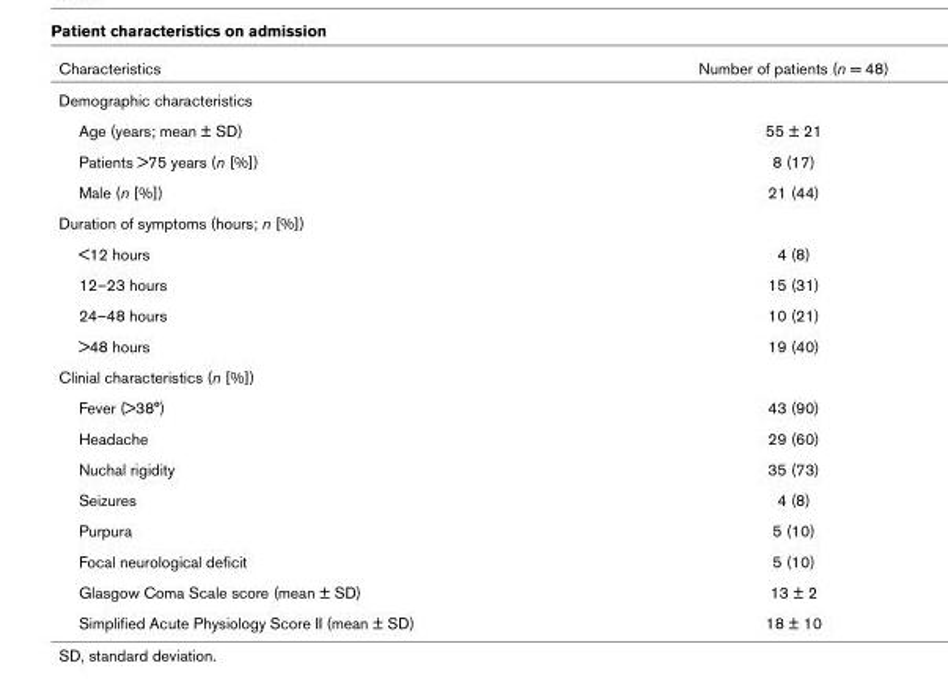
<table><thead><tr><td>Characteristics</td><td>Number of patients (n = 48)</td></tr></thead><tbody><tr><td colspan="2">Demographic characteristics</td></tr><tr><td>Age (years; mean ± SD)</td><td>55 ± 21</td></tr><tr><td>Patients &gt;75 years (n [%])</td><td>8 (17)</td></tr><tr><td>Male (n [%])</td><td>21 (44)</td></tr><tr><td colspan="2">Duration of symptoms (hours; n [%])</td></tr><tr><td>&lt;12 hours</td><td>4 (8)</td></tr><tr><td>12–23 hours</td><td>15 (31)</td></tr><tr><td>24–48 hours</td><td>10 (21)</td></tr><tr><td>&gt;48 hours</td><td>19 (40)</td></tr><tr><td colspan="2">Clinial characteristics (n [%])</td></tr><tr><td>Fever (&gt;38°)</td><td>43 (90)</td></tr><tr><td>Headache</td><td>29 (60)</td></tr><tr><td>Nuchal rigidity</td><td>35 (73)</td></tr><tr><td>Seizures</td><td>4 (8)</td></tr><tr><td>Purpura</td><td>5 (10)</td></tr><tr><td>Focal neurological deficit</td><td>5 (10)</td></tr><tr><td>Glasgow Coma Scale score (mean ± SD)</td><td>13 ± 2</td></tr><tr><td>Simplified Acute Physiology Score II (mean ± SD)</td><td>18 ± 10</td></tr></tbody></table>